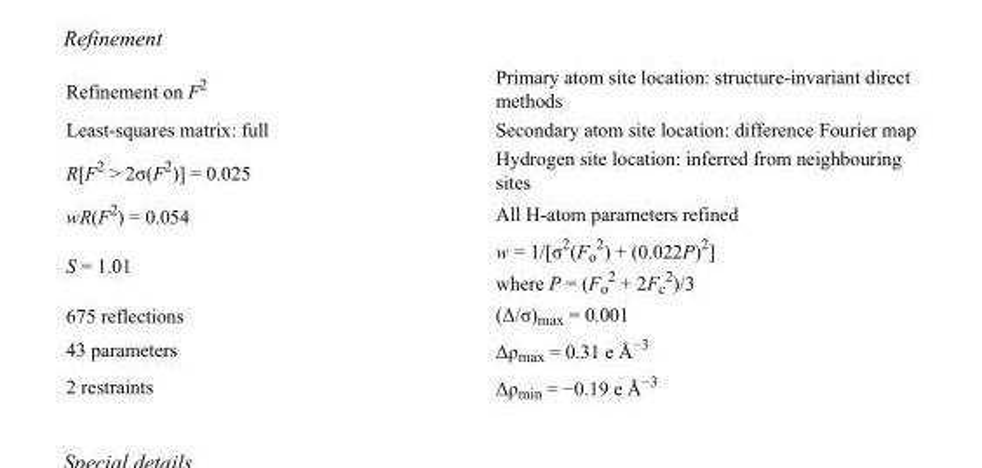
<table><tbody><tr><td>Refinement on F<sup>2</sup></td><td>Primary atom site location: structure-invariant direct methods</td></tr><tr><td>Least-squares matrix: full</td><td>Secondary atom site location: difference Fourier map</td></tr><tr><td>R[F<sup>2</sup> &gt; 2σ(F<sup>2</sup>)] = 0.025</td><td>Hydrogen site location: inferred from neighbouring sites</td></tr><tr><td>wR(F<sup>2</sup>) = 0.054</td><td>All H-atom parameters refined</td></tr><tr><td>S = 1.01</td><td>w = 1/[σ<sup>2</sup>(F<sub>o</sub> <sup>2</sup>) + (0.022P)<sup>2</sup>] where P = (F<sub>o</sub> <sup>2</sup> + 2F<sub>c</sub> <sup>2</sup>)/3</td></tr><tr><td>675 reflections</td><td>(Δ/σ)<sub>max</sub> = 0.001</td></tr><tr><td>43 parameters</td><td>Δρ<sub>max</sub> = 0.31 e Å<sup>−3</sup></td></tr><tr><td>2 restraints</td><td>Δρ<sub>min</sub> = −0.19 e Å<sup>−3</sup></td></tr></tbody></table>